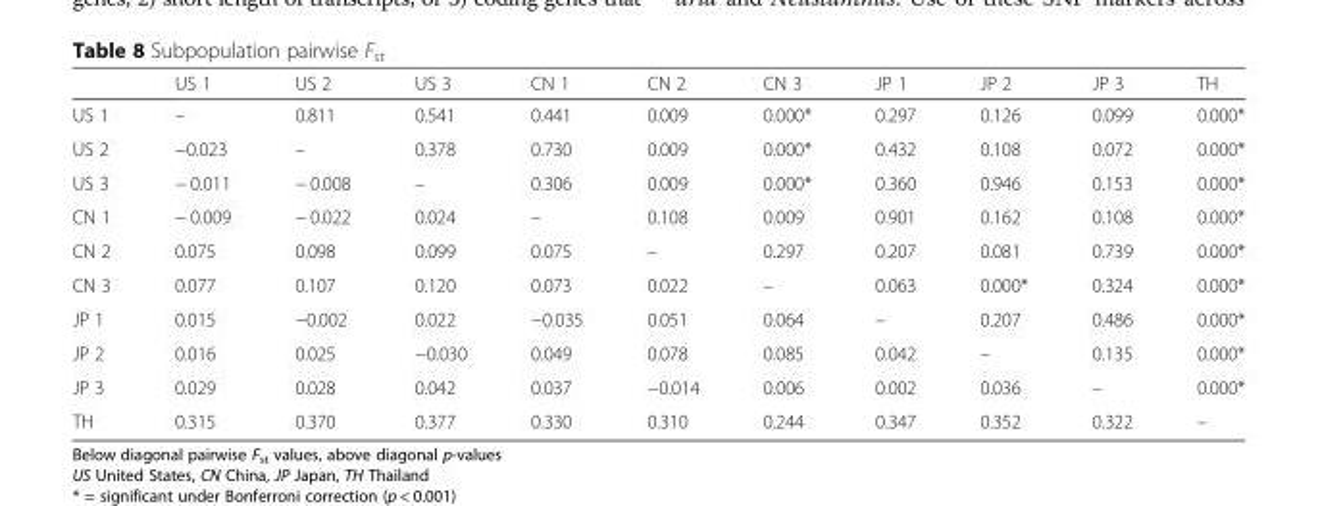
<table><thead><tr><td></td><td>US 1</td><td>US 2</td><td>US 3</td><td>CN 1</td><td>CN 2</td><td>CN 3</td><td>JP 1</td><td>JP 2</td><td>JP 3</td><td>TH</td></tr></thead><tbody><tr><td>US 1</td><td>–</td><td>0.811</td><td>0.541</td><td>0.441</td><td>0.009</td><td>0.000*</td><td>0.297</td><td>0.126</td><td>0.099</td><td>0.000*</td></tr><tr><td>US 2</td><td>−0.023</td><td>–</td><td>0.378</td><td>0.730</td><td>0.009</td><td>0.000*</td><td>0.432</td><td>0.108</td><td>0.072</td><td>0.000*</td></tr><tr><td>US 3</td><td>− 0.011</td><td>− 0.008</td><td>–</td><td>0.306</td><td>0.009</td><td>0.000*</td><td>0.360</td><td>0.946</td><td>0.153</td><td>0.000*</td></tr><tr><td>CN 1</td><td>− 0.009</td><td>− 0.022</td><td>0.024</td><td>–</td><td>0.108</td><td>0.009</td><td>0.901</td><td>0.162</td><td>0.108</td><td>0.000*</td></tr><tr><td>CN 2</td><td>0.075</td><td>0.098</td><td>0.099</td><td>0.075</td><td>–</td><td>0.297</td><td>0.207</td><td>0.081</td><td>0.739</td><td>0.000*</td></tr><tr><td>CN 3</td><td>0.077</td><td>0.107</td><td>0.120</td><td>0.073</td><td>0.022</td><td>–</td><td>0.063</td><td>0.000*</td><td>0.324</td><td>0.000*</td></tr><tr><td>JP 1</td><td>0.015</td><td>−0.002</td><td>0.022</td><td>−0.035</td><td>0.051</td><td>0.064</td><td>–</td><td>0.207</td><td>0.486</td><td>0.000*</td></tr><tr><td>JP 2</td><td>0.016</td><td>0.025</td><td>−0.030</td><td>0.049</td><td>0.078</td><td>0.085</td><td>0.042</td><td>–</td><td>0.135</td><td>0.000*</td></tr><tr><td>JP 3</td><td>0.029</td><td>0.028</td><td>0.042</td><td>0.037</td><td>−0.014</td><td>0.006</td><td>0.002</td><td>0.036</td><td>–</td><td>0.000*</td></tr><tr><td>TH</td><td>0.315</td><td>0.370</td><td>0.377</td><td>0.330</td><td>0.310</td><td>0.244</td><td>0.347</td><td>0.352</td><td>0.322</td><td>–</td></tr></tbody></table>